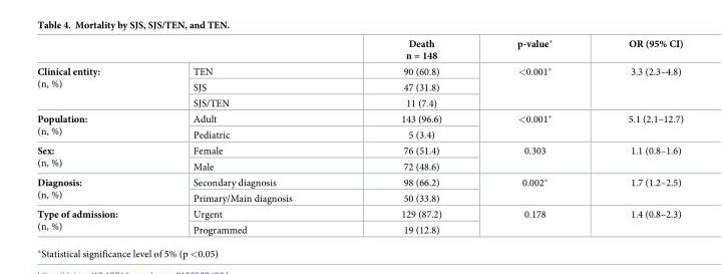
<table><thead><tr><td></td><td></td><td>Death n = 148</td><td>p-value*</td><td>OR (95% CI)</td></tr></thead><tbody><tr><td rowspan="3">Clinical entity: (n, %)</td><td>TEN</td><td>90 (60.8)</td><td rowspan="3">&lt;0.001*</td><td rowspan="3">3.3 (2.3–4.8)</td></tr><tr><td>SJS</td><td>47 (31.8)</td></tr><tr><td>SJS/TEN</td><td>11 (7.4)</td></tr><tr><td rowspan="2">Population: (n, %)</td><td>Adult</td><td>143 (96.6)</td><td rowspan="2">&lt;0.001*</td><td rowspan="2">5.1 (2.1–12.7)</td></tr><tr><td>Pediatric</td><td>5 (3.4)</td></tr><tr><td rowspan="2">Sex: (n, %)</td><td>Female</td><td>76 (51.4)</td><td rowspan="2">0.303</td><td rowspan="2">1.1 (0.8–1.6)</td></tr><tr><td>Male</td><td>72 (48.6)</td></tr><tr><td rowspan="2">Diagnosis: (n, %)</td><td>Secondary diagnosis</td><td>98 (66.2)</td><td rowspan="2">0.002*</td><td rowspan="2">1.7 (1.2–2.5)</td></tr><tr><td>Primary/Main diagnosis</td><td>50 (33.8)</td></tr><tr><td rowspan="2">Type of admission: (n, %)</td><td>Urgent</td><td>129 (87.2)</td><td rowspan="2">0.178</td><td rowspan="2">1.4 (0.8–2.3)</td></tr><tr><td>Programmed</td><td>19 (12.8)</td></tr></tbody></table>